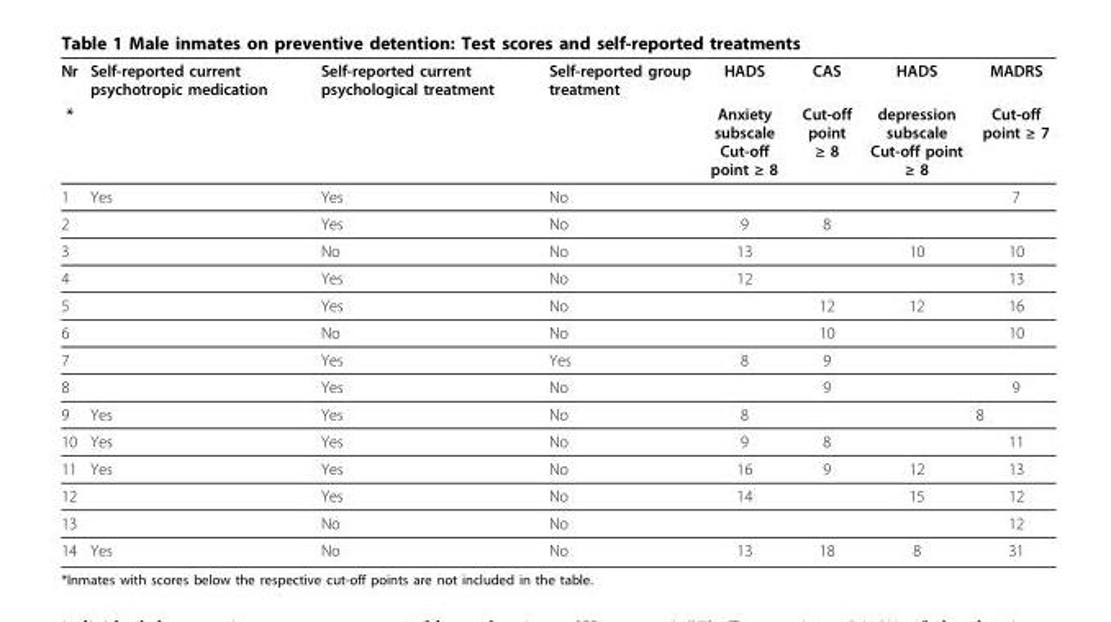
<table><thead><tr><td rowspan="2">Nr *</td><td rowspan="2">Self-reported current psychotropic medication</td><td rowspan="2">Self-reported current psychological treatment</td><td rowspan="2">Self-reported group treatment</td><td rowspan="2">HADS Anxiety subscale Cut-off point ≥ 8</td><td rowspan="2">CAS Cut-off point ≥ 8</td><td rowspan="2">HADS depression subscale Cut-off point ≥ 8</td><td rowspan="2">MADRS Cut-off point ≥ 7</td></tr><tr></tr></thead><tbody><tr><td>1</td><td>Yes</td><td>Yes</td><td>No</td><td></td><td></td><td></td><td>7</td></tr><tr><td>2</td><td></td><td>Yes</td><td>No</td><td>9</td><td>8</td><td></td><td></td></tr><tr><td>3</td><td></td><td>No</td><td>No</td><td>13</td><td></td><td>10</td><td>10</td></tr><tr><td>4</td><td></td><td>Yes</td><td>No</td><td>12</td><td></td><td></td><td>13</td></tr><tr><td>5</td><td></td><td>Yes</td><td>No</td><td></td><td>12</td><td>12</td><td>16</td></tr><tr><td>6</td><td></td><td>No</td><td>No</td><td></td><td>10</td><td></td><td>10</td></tr><tr><td>7</td><td></td><td>Yes</td><td>Yes</td><td>8</td><td>9</td><td></td><td></td></tr><tr><td>8</td><td></td><td>Yes</td><td>No</td><td></td><td>9</td><td></td><td>9</td></tr><tr><td>9</td><td>Yes</td><td>Yes</td><td>No</td><td>8</td><td></td><td></td><td>8</td></tr><tr><td>10</td><td>Yes</td><td>Yes</td><td>No</td><td>9</td><td>8</td><td></td><td>11</td></tr><tr><td>11</td><td>Yes</td><td>Yes</td><td>No</td><td>16</td><td>9</td><td>12</td><td>13</td></tr><tr><td>12</td><td></td><td>Yes</td><td>No</td><td>14</td><td></td><td>15</td><td>12</td></tr><tr><td>13</td><td></td><td>No</td><td>No</td><td></td><td></td><td></td><td>12</td></tr><tr><td>14</td><td>Yes</td><td>No</td><td>No</td><td>13</td><td>18</td><td>8</td><td>31</td></tr></tbody></table>